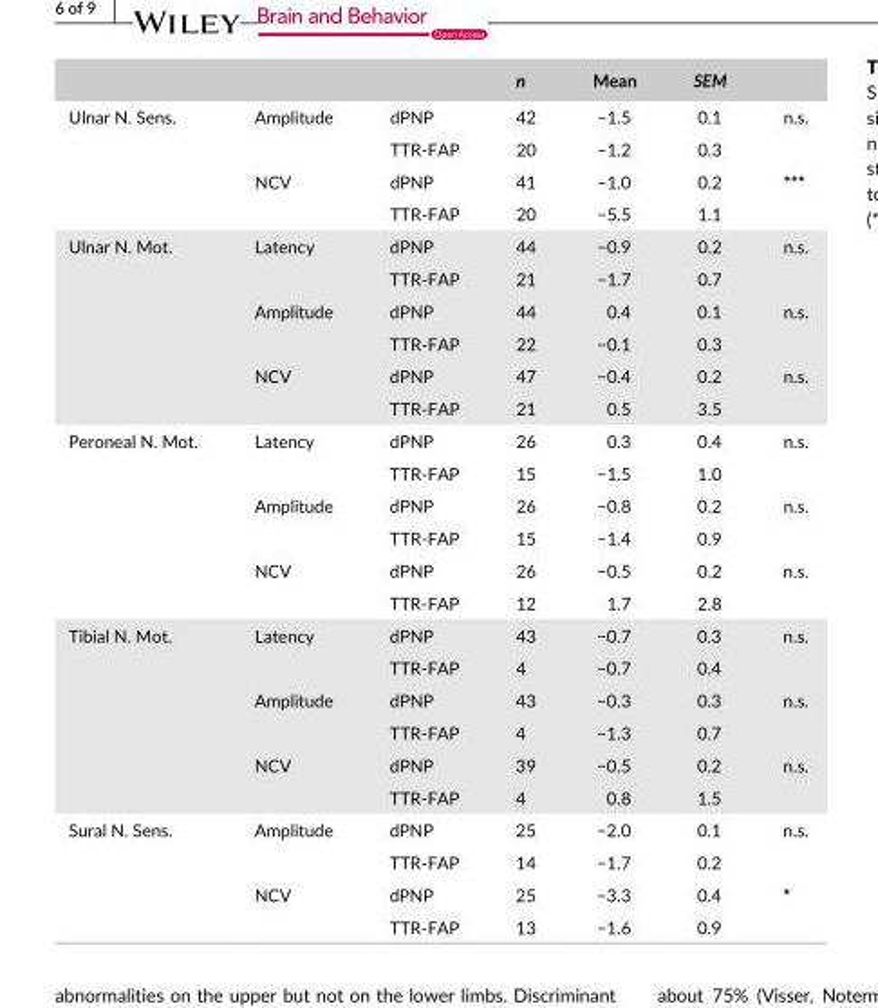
<table><thead><tr><td></td><td></td><td></td><td>n</td><td>Mean</td><td>SEM</td><td></td></tr></thead><tbody><tr><td rowspan="4">Ulnar N. Sens.</td><td rowspan="2">Amplitude</td><td>dPNP</td><td>42</td><td>−1.5</td><td>0.1</td><td rowspan="2">n.s.</td></tr><tr><td>TTR- FAP</td><td>20</td><td>−1.2</td><td>0.3</td></tr><tr><td rowspan="2">NCV</td><td>dPNP</td><td>41</td><td>−1.0</td><td>0.2</td><td rowspan="2">***</td></tr><tr><td>TTR- FAP</td><td>20</td><td>−5.5</td><td>1.1</td></tr><tr><td rowspan="6">Ulnar N. Mot.</td><td rowspan="2">Latency</td><td>dPNP</td><td>44</td><td>−0.9</td><td>0.2</td><td rowspan="2">n.s.</td></tr><tr><td>TTR- FAP</td><td>21</td><td>−1.7</td><td>0.7</td></tr><tr><td rowspan="2">Amplitude</td><td>dPNP</td><td>44</td><td>0.4</td><td>0.1</td><td rowspan="2">n.s.</td></tr><tr><td>TTR- FAP</td><td>22</td><td>−0.1</td><td>0.3</td></tr><tr><td rowspan="2">NCV</td><td>dPNP</td><td>47</td><td>−0.4</td><td>0.2</td><td rowspan="2">n.s.</td></tr><tr><td>TTR- FAP</td><td>21</td><td>0.5</td><td>3.5</td></tr><tr><td rowspan="6">Peroneal N. Mot.</td><td rowspan="2">Latency</td><td>dPNP</td><td>26</td><td>0.3</td><td>0.4</td><td rowspan="2">n.s.</td></tr><tr><td>TTR- FAP</td><td>15</td><td>−1.5</td><td>1.0</td></tr><tr><td rowspan="2">Amplitude</td><td>dPNP</td><td>26</td><td>−0.8</td><td>0.2</td><td rowspan="2">n.s.</td></tr><tr><td>TTR- FAP</td><td>15</td><td>−1.4</td><td>0.9</td></tr><tr><td rowspan="2">NCV</td><td>dPNP</td><td>26</td><td>−0.5</td><td>0.2</td><td rowspan="2">n.s.</td></tr><tr><td>TTR- FAP</td><td>12</td><td>1.7</td><td>2.8</td></tr><tr><td rowspan="6">Tibial N. Mot.</td><td rowspan="2">Latency</td><td>dPNP</td><td>43</td><td>−0.7</td><td>0.3</td><td rowspan="2">n.s.</td></tr><tr><td>TTR- FAP</td><td>4</td><td>−0.7</td><td>0.4</td></tr><tr><td rowspan="2">Amplitude</td><td>dPNP</td><td>43</td><td>−0.3</td><td>0.3</td><td rowspan="2">n.s.</td></tr><tr><td>TTR- FAP</td><td>4</td><td>−1.3</td><td>0.7</td></tr><tr><td rowspan="2">NCV</td><td>dPNP</td><td>39</td><td>−0.5</td><td>0.2</td><td rowspan="2">n.s.</td></tr><tr><td>TTR- FAP</td><td>4</td><td>0.8</td><td>1.5</td></tr><tr><td rowspan="4">Sural N. Sens.</td><td rowspan="2">Amplitude</td><td>dPNP</td><td>25</td><td>−2.0</td><td>0.1</td><td rowspan="2">n.s.</td></tr><tr><td>TTR- FAP</td><td>14</td><td>−1.7</td><td>0.2</td></tr><tr><td rowspan="2">NCV</td><td>dPNP</td><td>25</td><td>−3.3</td><td>0.4</td><td rowspan="2">*</td></tr><tr><td>TTR- FAP</td><td>13</td><td>−1.6</td><td>0.9</td></tr></tbody></table>